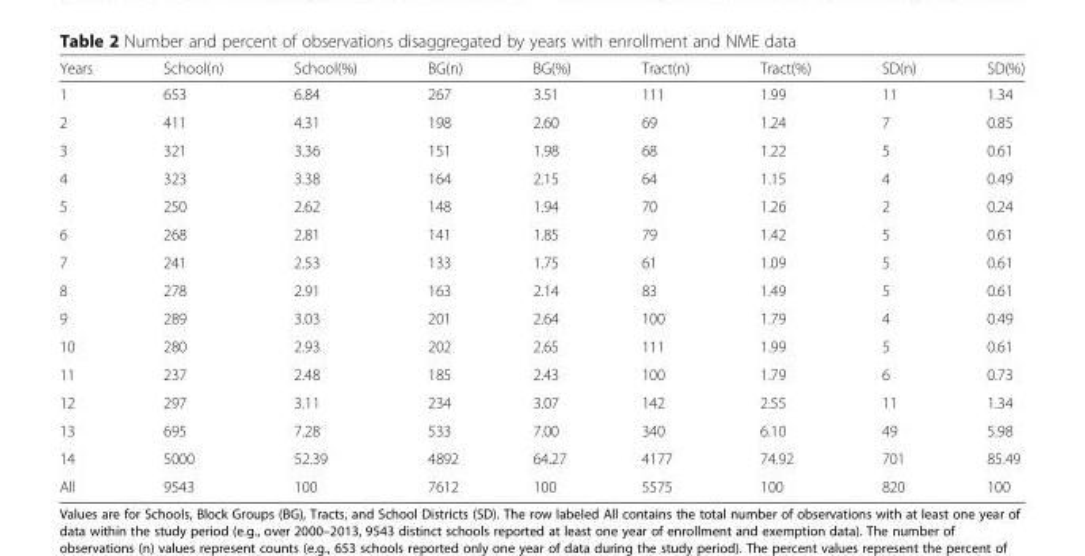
<table><thead><tr><td>Years</td><td>School(n)</td><td>School(%)</td><td>BG(n)</td><td>BG(%)</td><td>Tract(n)</td><td>Tract(%)</td><td>SD(n)</td><td>SD(%)</td></tr></thead><tbody><tr><td>1</td><td>653</td><td>6.84</td><td>267</td><td>3.51</td><td>111</td><td>1.99</td><td>11</td><td>1.34</td></tr><tr><td>2</td><td>411</td><td>4.31</td><td>198</td><td>2.60</td><td>69</td><td>1.24</td><td>7</td><td>0.85</td></tr><tr><td>3</td><td>321</td><td>3.36</td><td>151</td><td>1.98</td><td>68</td><td>1.22</td><td>5</td><td>0.61</td></tr><tr><td>4</td><td>323</td><td>3.38</td><td>164</td><td>2.15</td><td>64</td><td>1.15</td><td>4</td><td>0.49</td></tr><tr><td>5</td><td>250</td><td>2.62</td><td>148</td><td>1.94</td><td>70</td><td>1.26</td><td>2</td><td>0.24</td></tr><tr><td>6</td><td>268</td><td>2.81</td><td>141</td><td>1.85</td><td>79</td><td>1.42</td><td>5</td><td>0.61</td></tr><tr><td>7</td><td>241</td><td>2.53</td><td>133</td><td>1.75</td><td>61</td><td>1.09</td><td>5</td><td>0.61</td></tr><tr><td>8</td><td>278</td><td>2.91</td><td>163</td><td>2.14</td><td>83</td><td>1.49</td><td>5</td><td>0.61</td></tr><tr><td>9</td><td>289</td><td>3.03</td><td>201</td><td>2.64</td><td>100</td><td>1.79</td><td>4</td><td>0.49</td></tr><tr><td>10</td><td>280</td><td>2.93</td><td>202</td><td>2.65</td><td>111</td><td>1.99</td><td>5</td><td>0.61</td></tr><tr><td>11</td><td>237</td><td>2.48</td><td>185</td><td>2.43</td><td>100</td><td>1.79</td><td>6</td><td>0.73</td></tr><tr><td>12</td><td>297</td><td>3.11</td><td>234</td><td>3.07</td><td>142</td><td>2.55</td><td>11</td><td>1.34</td></tr><tr><td>13</td><td>695</td><td>7.28</td><td>533</td><td>7.00</td><td>340</td><td>6.10</td><td>49</td><td>5.98</td></tr><tr><td>14</td><td>5000</td><td>52.39</td><td>4892</td><td>64.27</td><td>4177</td><td>74.92</td><td>701</td><td>85.49</td></tr><tr><td>All</td><td>9543</td><td>100</td><td>7612</td><td>100</td><td>5575</td><td>100</td><td>820</td><td>100</td></tr></tbody></table>